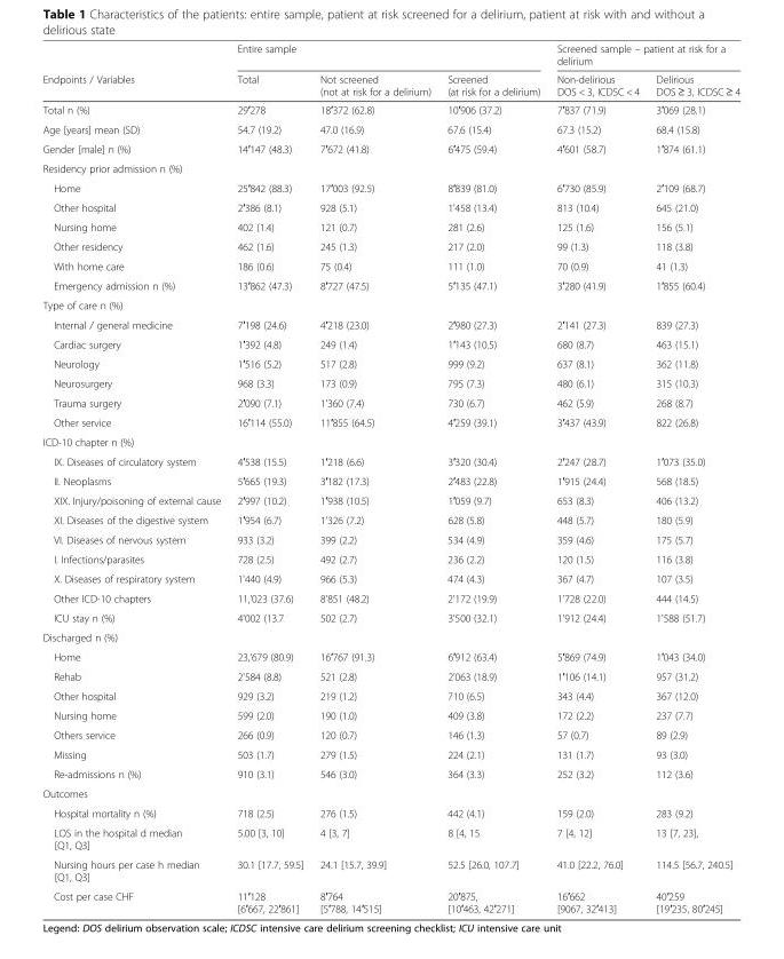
<table><thead><tr><td rowspan="2">Endpoints / Variables</td><td colspan="3">Entire sample</td><td colspan="2">Screened sample – patient at risk for a delirium</td></tr><tr><td>Total</td><td>Not screened (not at risk for a delirium)</td><td>Screened (at risk for a delirium)</td><td>Non-delirious DOS &lt; 3, ICDSC &lt; 4</td><td>Delirious DOS ≥ 3, ICDSC ≥ 4</td></tr></thead><tbody><tr><td>Total n (%)</td><td>29′278</td><td>18′372 (62.8)</td><td>10′906 (37.2)</td><td>7′837 (71.9)</td><td>3′069 (28.1)</td></tr><tr><td>Age [years] mean (SD)</td><td>54.7 (19.2)</td><td>47.0 (16.9)</td><td>67.6 (15.4)</td><td>67.3 (15.2)</td><td>68.4 (15.8)</td></tr><tr><td>Gender [male] n (%)</td><td>14′147 (48.3)</td><td>7′672 (41.8)</td><td>6′475 (59.4)</td><td>4′601 (58.7)</td><td>1′874 (61.1)</td></tr><tr><td colspan="6">Residency prior admission n (%)</td></tr><tr><td>Home</td><td>25′842 (88.3)</td><td>17′003 (92.5)</td><td>8′839 (81.0)</td><td>6′730 (85.9)</td><td>2′109 (68.7)</td></tr><tr><td>Other hospital</td><td>2′386 (8.1)</td><td>928 (5.1)</td><td>1&#x27;458 (13.4)</td><td>813 (10.4)</td><td>645 (21.0)</td></tr><tr><td>Nursing home</td><td>402 (1.4)</td><td>121 (0.7)</td><td>281 (2.6)</td><td>125 (1.6)</td><td>156 (5.1)</td></tr><tr><td>Other residency</td><td>462 (1.6)</td><td>245 (1.3)</td><td>217 (2.0)</td><td>99 (1.3)</td><td>118 (3.8)</td></tr><tr><td>With home care</td><td>186 (0.6)</td><td>75 (0.4)</td><td>111 (1.0)</td><td>70 (0.9)</td><td>41 (1.3)</td></tr><tr><td>Emergency admission n (%)</td><td>13′862 (47.3)</td><td>8′727 (47.5)</td><td>5′135 (47.1)</td><td>3′280 (41.9)</td><td>1′855 (60.4)</td></tr><tr><td colspan="6">Type of care n (%)</td></tr><tr><td>Internal / general medicine</td><td>7′198 (24.6)</td><td>4′218 (23.0)</td><td>2′980 (27.3)</td><td>2′141 (27.3)</td><td>839 (27.3)</td></tr><tr><td>Cardiac surgery</td><td>1′392 (4.8)</td><td>249 (1.4)</td><td>1′143 (10.5)</td><td>680 (8.7)</td><td>463 (15.1)</td></tr><tr><td>Neurology</td><td>1′516 (5.2)</td><td>517 (2.8)</td><td>999 (9.2)</td><td>637 (8.1)</td><td>362 (11.8)</td></tr><tr><td>Neurosurgery</td><td>968 (3.3)</td><td>173 (0.9)</td><td>795 (7.3)</td><td>480 (6.1)</td><td>315 (10.3)</td></tr><tr><td>Trauma surgery</td><td>2′090 (7.1)</td><td>1&#x27;360 (7.4)</td><td>730 (6.7)</td><td>462 (5.9)</td><td>268 (8.7)</td></tr><tr><td>Other service</td><td>16′114 (55.0)</td><td>11′855 (64.5)</td><td>4′259 (39.1)</td><td>3′437 (43.9)</td><td>822 (26.8)</td></tr><tr><td colspan="6">ICD-10 chapter n (%)</td></tr><tr><td>IX. Diseases of circulatory system</td><td>4′538 (15.5)</td><td>1′218 (6.6)</td><td>3′320 (30.4)</td><td>2′247 (28.7)</td><td>1′073 (35.0)</td></tr><tr><td>II. Neoplasms</td><td>5′665 (19.3)</td><td>3′182 (17.3)</td><td>2′483 (22.8)</td><td>1′915 (24.4)</td><td>568 (18.5)</td></tr><tr><td>XIX. Injury/poisoning of external cause</td><td>2′997 (10.2)</td><td>1′938 (10.5)</td><td>1′059 (9.7)</td><td>653 (8.3)</td><td>406 (13.2)</td></tr><tr><td>XI. Diseases of the digestive system</td><td>1′954 (6.7)</td><td>1&#x27;326 (7.2)</td><td>628 (5.8)</td><td>448 (5.7)</td><td>180 (5.9)</td></tr><tr><td>VI. Diseases of nervous system</td><td>933 (3.2)</td><td>399 (2.2)</td><td>534 (4.9)</td><td>359 (4.6)</td><td>175 (5.7)</td></tr><tr><td>I. Infections/parasites</td><td>728 (2.5)</td><td>492 (2.7)</td><td>236 (2.2)</td><td>120 (1.5)</td><td>116 (3.8)</td></tr><tr><td>X. Diseases of respiratory system</td><td>1&#x27;440 (4.9)</td><td>966 (5.3)</td><td>474 (4.3)</td><td>367 (4.7)</td><td>107 (3.5)</td></tr><tr><td>Other ICD-10 chapters</td><td>11,&#x27;023 (37.6)</td><td>8&#x27;851 (48.2)</td><td>2&#x27;172 (19.9)</td><td>1&#x27;728 (22.0)</td><td>444 (14.5)</td></tr><tr><td>ICU stay n (%)</td><td>4&#x27;002 (13.7</td><td>502 (2.7)</td><td>3&#x27;500 (32.1)</td><td>1&#x27;912 (24.4)</td><td>1&#x27;588 (51.7)</td></tr><tr><td colspan="6">Discharged n (%)</td></tr><tr><td>Home</td><td>23,&#x27;679 (80.9)</td><td>16′767 (91.3)</td><td>6′912 (63.4)</td><td>5′869 (74.9)</td><td>1′043 (34.0)</td></tr><tr><td>Rehab</td><td>2&#x27;584 (8.8)</td><td>521 (2.8)</td><td>2&#x27;063 (18.9)</td><td>1′106 (14.1)</td><td>957 (31.2)</td></tr><tr><td>Other hospital</td><td>929 (3.2)</td><td>219 (1.2)</td><td>710 (6.5)</td><td>343 (4.4)</td><td>367 (12.0)</td></tr><tr><td>Nursing home</td><td>599 (2.0)</td><td>190 (1.0)</td><td>409 (3.8)</td><td>172 (2.2)</td><td>237 (7.7)</td></tr><tr><td>Others service</td><td>266 (0.9)</td><td>120 (0.7)</td><td>146 (1.3)</td><td>57 (0.7)</td><td>89 (2.9)</td></tr><tr><td>Missing</td><td>503 (1.7)</td><td>279 (1.5)</td><td>224 (2.1)</td><td>131 (1.7)</td><td>93 (3.0)</td></tr><tr><td>Re-admissions n (%)</td><td>910 (3.1)</td><td>546 (3.0)</td><td>364 (3.3)</td><td>252 (3.2)</td><td>112 (3.6)</td></tr><tr><td colspan="6">Outcomes</td></tr><tr><td>Hospital mortality n (%)</td><td>718 (2.5)</td><td>276 (1.5)</td><td>442 (4.1)</td><td>159 (2.0)</td><td>283 (9.2)</td></tr><tr><td>LOS in the hospital d median [Q1, Q3]</td><td>5.00 [3, 10]</td><td>4 [3, 7]</td><td>8 [4, 15</td><td>7 [4, 12]</td><td>13 [7, 23],</td></tr><tr><td>Nursing hours per case h median [Q1, Q3]</td><td>30.1 [17.7, 59.5]</td><td>24.1 [15.7, 39.9]</td><td>52.5 [26.0, 107.7]</td><td>41.0 [22.2, 76.0]</td><td>114.5 [56.7, 240.5]</td></tr><tr><td>Cost per case CHF</td><td>11′128 [6′667, 22′861]</td><td>8′764 [5′788, 14′515]</td><td>20′875, [10′463, 42′271]</td><td>16′662 [9067, 32′413]</td><td>40′259 [19′235, 80′245]</td></tr></tbody></table>